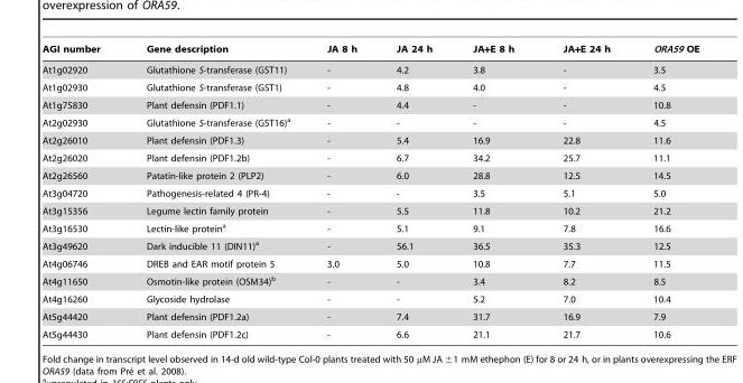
<table><thead><tr><td>AGI number</td><td>Gene description</td><td>JA 8 h</td><td>JA 24 h</td><td>JA+E 8 h</td><td>JA+E 24 h</td><td>ORA59 OE</td></tr></thead><tbody><tr><td>At1g02920</td><td>Glutathione S-transferase (GST11)</td><td>-</td><td>4.2</td><td>3.8</td><td>-</td><td>3.5</td></tr><tr><td>At1g02930</td><td>Glutathione S-transferase (GST1)</td><td>-</td><td>4.8</td><td>4.0</td><td>-</td><td>4.5</td></tr><tr><td>At1g75830</td><td>Plant defensin (PDF1.1)</td><td>-</td><td>4.4</td><td>-</td><td>-</td><td>10.8</td></tr><tr><td>At2g02930</td><td>Glutathione S-transferase (GST16)<sup>a</sup></td><td>-</td><td>-</td><td>-</td><td>-</td><td>4.5</td></tr><tr><td>At2g26010</td><td>Plant defensin (PDF1.3)</td><td>-</td><td>5.4</td><td>16.9</td><td>22.8</td><td>11.6</td></tr><tr><td>At2g26020</td><td>Plant defensin (PDF1.2b)</td><td>-</td><td>6.7</td><td>34.2</td><td>25.7</td><td>11.1</td></tr><tr><td>At2g26560</td><td>Patatin-like protein 2 (PLP2)</td><td>-</td><td>6.0</td><td>28.8</td><td>12.5</td><td>14.5</td></tr><tr><td>At3g04720</td><td>Pathogenesis-related 4 (PR-4)</td><td>-</td><td>-</td><td>3.5</td><td>5.1</td><td>5.0</td></tr><tr><td>At3g15356</td><td>Legume lectin family protein</td><td>-</td><td>5.5</td><td>11.8</td><td>10.2</td><td>21.2</td></tr><tr><td>At3g16530</td><td>Lectin-like protein<sup>a</sup></td><td>-</td><td>5.1</td><td>9.1</td><td>7.8</td><td>16.6</td></tr><tr><td>At3g49620</td><td>Dark inducible 11 (DIN11)<sup>a</sup></td><td>-</td><td>56.1</td><td>36.5</td><td>35.3</td><td>12.5</td></tr><tr><td>At4g06746</td><td>DREB and EAR motif protein 5</td><td>3.0</td><td>5.0</td><td>10.8</td><td>7.7</td><td>11.5</td></tr><tr><td>At4g11650</td><td>Osmotin-like protein (OSM34)<sup>b</sup></td><td>-</td><td>-</td><td>3.4</td><td>8.2</td><td>8.5</td></tr><tr><td>At4g16260</td><td>Glycoside hydrolase</td><td>-</td><td>-</td><td>5.2</td><td>7.0</td><td>10.4</td></tr><tr><td>At5g44420</td><td>Plant defensin (PDF1.2a)</td><td>-</td><td>7.4</td><td>31.7</td><td>16.9</td><td>7.9</td></tr><tr><td>At5g44430</td><td>Plant defensin (PDF1.2c)</td><td>-</td><td>6.6</td><td>21.1</td><td>21.7</td><td>10.6</td></tr></tbody></table>